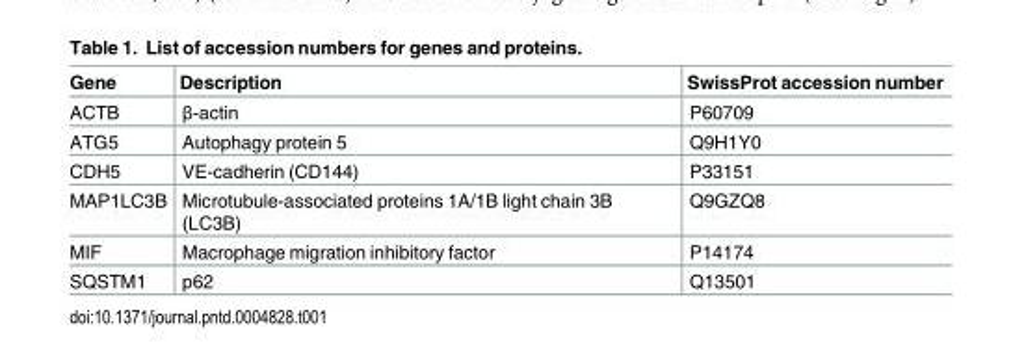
<table><thead><tr><td>Gene</td><td>Description</td><td>SwissProt accession number</td></tr></thead><tbody><tr><td>ACTB</td><td>β-actin</td><td>P60709</td></tr><tr><td>ATG5</td><td>Autophagy protein 5</td><td>Q9H1Y0</td></tr><tr><td>CDH5</td><td>VE-cadherin (CD144)</td><td>P33151</td></tr><tr><td>MAP1LC3B</td><td>Microtubule-associated proteins 1A/1B light chain 3B (LC3B)</td><td>Q9GZQ8</td></tr><tr><td>MIF</td><td>Macrophage migration inhibitory factor</td><td>P14174</td></tr><tr><td>SQSTM1</td><td>p62</td><td>Q13501</td></tr></tbody></table>